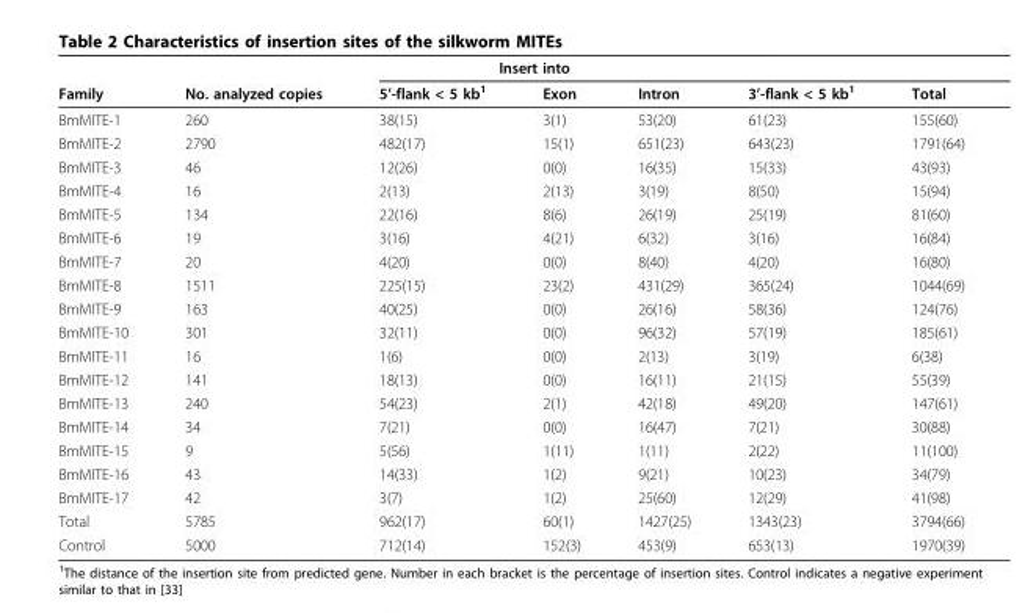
<table><thead><tr><td colspan="7">Insert into</td></tr><tr><td>Family</td><td>No. analyzed copies</td><td>5’-flank &lt; 5 kb<sup>1</sup></td><td>Exon</td><td>Intron</td><td>3’-flank &lt; 5 kb<sup>1</sup></td><td>Total</td></tr></thead><tbody><tr><td>BmMITE-1</td><td>260</td><td>38(15)</td><td>3(1)</td><td>53(20)</td><td>61(23)</td><td>155(60)</td></tr><tr><td>BmMITE-2</td><td>2790</td><td>482(17)</td><td>15(1)</td><td>651(23)</td><td>643(23)</td><td>1791(64)</td></tr><tr><td>BmMITE-3</td><td>46</td><td>12(26)</td><td>0(0)</td><td>16(35)</td><td>15(33)</td><td>43(93)</td></tr><tr><td>BmMITE-4</td><td>16</td><td>2(13)</td><td>2(13)</td><td>3(19)</td><td>8(50)</td><td>15(94)</td></tr><tr><td>BmMITE-5</td><td>134</td><td>22(16)</td><td>8(6)</td><td>26(19)</td><td>25(19)</td><td>81(60)</td></tr><tr><td>BmMITE-6</td><td>19</td><td>3(16)</td><td>4(21)</td><td>6(32)</td><td>3(16)</td><td>16(84)</td></tr><tr><td>BmMITE-7</td><td>20</td><td>4(20)</td><td>0(0)</td><td>8(40)</td><td>4(20)</td><td>16(80)</td></tr><tr><td>BmMITE-8</td><td>1511</td><td>225(15)</td><td>23(2)</td><td>431(29)</td><td>365(24)</td><td>1044(69)</td></tr><tr><td>BmMITE-9</td><td>163</td><td>40(25)</td><td>0(0)</td><td>26(16)</td><td>58(36)</td><td>124(76)</td></tr><tr><td>BmMITE-10</td><td>301</td><td>32(11)</td><td>0(0)</td><td>96(32)</td><td>57(19)</td><td>185(61)</td></tr><tr><td>BmMITE-11</td><td>16</td><td>1(6)</td><td>0(0)</td><td>2(13)</td><td>3(19)</td><td>6(38)</td></tr><tr><td>BmMITE-12</td><td>141</td><td>18(13)</td><td>0(0)</td><td>16(11)</td><td>21(15)</td><td>55(39)</td></tr><tr><td>BmMITE-13</td><td>240</td><td>54(23)</td><td>2(1)</td><td>42(18)</td><td>49(20)</td><td>147(61)</td></tr><tr><td>BmMITE-14</td><td>34</td><td>7(21)</td><td>0(0)</td><td>16(47)</td><td>7(21)</td><td>30(88)</td></tr><tr><td>BmMITE-15</td><td>9</td><td>5(56)</td><td>1(11)</td><td>1(11)</td><td>2(22)</td><td>11(100)</td></tr><tr><td>BmMITE-16</td><td>43</td><td>14(33)</td><td>1(2)</td><td>9(21)</td><td>10(23)</td><td>34(79)</td></tr><tr><td>BmMITE-17</td><td>42</td><td>3(7)</td><td>1(2)</td><td>25(60)</td><td>12(29)</td><td>41(98)</td></tr><tr><td>Total</td><td>5785</td><td>962(17)</td><td>60(1)</td><td>1427(25)</td><td>1343(23)</td><td>3794(66)</td></tr><tr><td>Control</td><td>5000</td><td>712(14)</td><td>152(3)</td><td>453(9)</td><td>653(13)</td><td>1970(39)</td></tr></tbody></table>